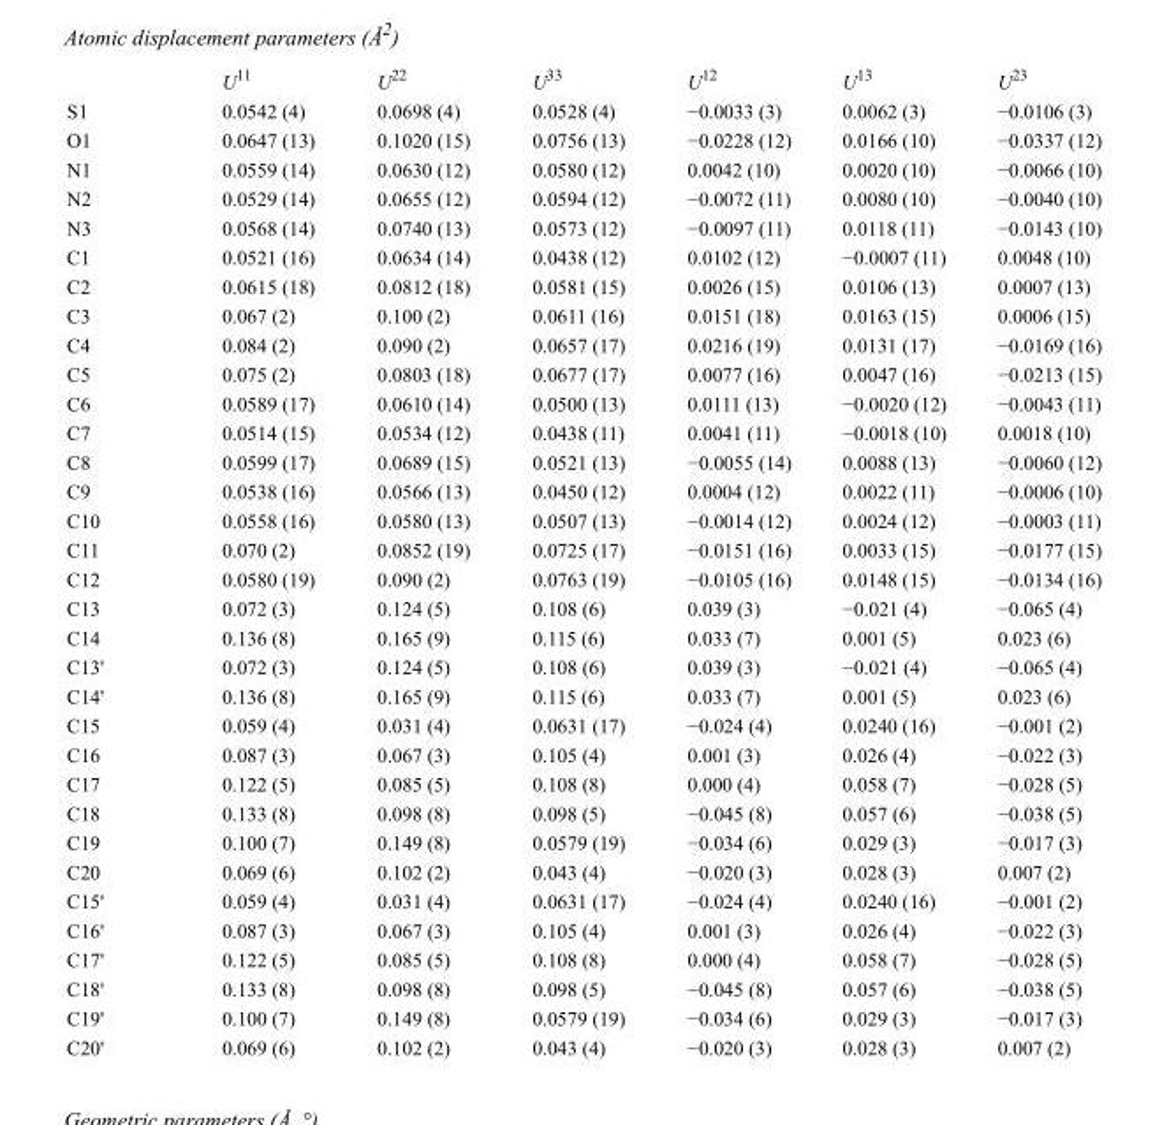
<table><thead><tr><td></td><td>U<sup>11</sup></td><td>U<sup>22</sup></td><td>U<sup>33</sup></td><td>U<sup>12</sup></td><td>U<sup>13</sup></td><td>U<sup>23</sup></td></tr></thead><tbody><tr><td>S1</td><td>0.0542 (4)</td><td>0.0698 (4)</td><td>0.0528 (4)</td><td>−0.0033 (3)</td><td>0.0062 (3)</td><td>−0.0106 (3)</td></tr><tr><td>O1</td><td>0.0647 (13)</td><td>0.1020 (15)</td><td>0.0756 (13)</td><td>−0.0228 (12)</td><td>0.0166 (10)</td><td>−0.0337 (12)</td></tr><tr><td>N1</td><td>0.0559 (14)</td><td>0.0630 (12)</td><td>0.0580 (12)</td><td>0.0042 (10)</td><td>0.0020 (10)</td><td>−0.0066 (10)</td></tr><tr><td>N2</td><td>0.0529 (14)</td><td>0.0655 (12)</td><td>0.0594 (12)</td><td>−0.0072 (11)</td><td>0.0080 (10)</td><td>−0.0040 (10)</td></tr><tr><td>N3</td><td>0.0568 (14)</td><td>0.0740 (13)</td><td>0.0573 (12)</td><td>−0.0097 (11)</td><td>0.0118 (11)</td><td>−0.0143 (10)</td></tr><tr><td>C1</td><td>0.0521 (16)</td><td>0.0634 (14)</td><td>0.0438 (12)</td><td>0.0102 (12)</td><td>−0.0007 (11)</td><td>0.0048 (10)</td></tr><tr><td>C2</td><td>0.0615 (18)</td><td>0.0812 (18)</td><td>0.0581 (15)</td><td>0.0026 (15)</td><td>0.0106 (13)</td><td>0.0007 (13)</td></tr><tr><td>C3</td><td>0.067 (2)</td><td>0.100 (2)</td><td>0.0611 (16)</td><td>0.0151 (18)</td><td>0.0163 (15)</td><td>0.0006 (15)</td></tr><tr><td>C4</td><td>0.084 (2)</td><td>0.090 (2)</td><td>0.0657 (17)</td><td>0.0216 (19)</td><td>0.0131 (17)</td><td>−0.0169 (16)</td></tr><tr><td>C5</td><td>0.075 (2)</td><td>0.0803 (18)</td><td>0.0677 (17)</td><td>0.0077 (16)</td><td>0.0047 (16)</td><td>−0.0213 (15)</td></tr><tr><td>C6</td><td>0.0589 (17)</td><td>0.0610 (14)</td><td>0.0500 (13)</td><td>0.0111 (13)</td><td>−0.0020 (12)</td><td>−0.0043 (11)</td></tr><tr><td>C7</td><td>0.0514 (15)</td><td>0.0534 (12)</td><td>0.0438 (11)</td><td>0.0041 (11)</td><td>−0.0018 (10)</td><td>0.0018 (10)</td></tr><tr><td>C8</td><td>0.0599 (17)</td><td>0.0689 (15)</td><td>0.0521 (13)</td><td>−0.0055 (14)</td><td>0.0088 (13)</td><td>−0.0060 (12)</td></tr><tr><td>C9</td><td>0.0538 (16)</td><td>0.0566 (13)</td><td>0.0450 (12)</td><td>0.0004 (12)</td><td>0.0022 (11)</td><td>−0.0006 (10)</td></tr><tr><td>C10</td><td>0.0558 (16)</td><td>0.0580 (13)</td><td>0.0507 (13)</td><td>−0.0014 (12)</td><td>0.0024 (12)</td><td>−0.0003 (11)</td></tr><tr><td>C11</td><td>0.070 (2)</td><td>0.0852 (19)</td><td>0.0725 (17)</td><td>−0.0151 (16)</td><td>0.0033 (15)</td><td>−0.0177 (15)</td></tr><tr><td>C12</td><td>0.0580 (19)</td><td>0.090 (2)</td><td>0.0763 (19)</td><td>−0.0105 (16)</td><td>0.0148 (15)</td><td>−0.0134 (16)</td></tr><tr><td>C13</td><td>0.072 (3)</td><td>0.124 (5)</td><td>0.108 (6)</td><td>0.039 (3)</td><td>−0.021 (4)</td><td>−0.065 (4)</td></tr><tr><td>C14</td><td>0.136 (8)</td><td>0.165 (9)</td><td>0.115 (6)</td><td>0.033 (7)</td><td>0.001 (5)</td><td>0.023 (6)</td></tr><tr><td>C13&#x27;</td><td>0.072 (3)</td><td>0.124 (5)</td><td>0.108 (6)</td><td>0.039 (3)</td><td>−0.021 (4)</td><td>−0.065 (4)</td></tr><tr><td>C14&#x27;</td><td>0.136 (8)</td><td>0.165 (9)</td><td>0.115 (6)</td><td>0.033 (7)</td><td>0.001 (5)</td><td>0.023 (6)</td></tr><tr><td>C15</td><td>0.059 (4)</td><td>0.031 (4)</td><td>0.0631 (17)</td><td>−0.024 (4)</td><td>0.0240 (16)</td><td>−0.001 (2)</td></tr><tr><td>C16</td><td>0.087 (3)</td><td>0.067 (3)</td><td>0.105 (4)</td><td>0.001 (3)</td><td>0.026 (4)</td><td>−0.022 (3)</td></tr><tr><td>C17</td><td>0.122 (5)</td><td>0.085 (5)</td><td>0.108 (8)</td><td>0.000 (4)</td><td>0.058 (7)</td><td>−0.028 (5)</td></tr><tr><td>C18</td><td>0.133 (8)</td><td>0.098 (8)</td><td>0.098 (5)</td><td>−0.045 (8)</td><td>0.057 (6)</td><td>−0.038 (5)</td></tr><tr><td>C19</td><td>0.100 (7)</td><td>0.149 (8)</td><td>0.0579 (19)</td><td>−0.034 (6)</td><td>0.029 (3)</td><td>−0.017 (3)</td></tr><tr><td>C20</td><td>0.069 (6)</td><td>0.102 (2)</td><td>0.043 (4)</td><td>−0.020 (3)</td><td>0.028 (3)</td><td>0.007 (2)</td></tr><tr><td>C15&#x27;</td><td>0.059 (4)</td><td>0.031 (4)</td><td>0.0631 (17)</td><td>−0.024 (4)</td><td>0.0240 (16)</td><td>−0.001 (2)</td></tr><tr><td>C16&#x27;</td><td>0.087 (3)</td><td>0.067 (3)</td><td>0.105 (4)</td><td>0.001 (3)</td><td>0.026 (4)</td><td>−0.022 (3)</td></tr><tr><td>C17&#x27;</td><td>0.122 (5)</td><td>0.085 (5)</td><td>0.108 (8)</td><td>0.000 (4)</td><td>0.058 (7)</td><td>−0.028 (5)</td></tr><tr><td>C18&#x27;</td><td>0.133 (8)</td><td>0.098 (8)</td><td>0.098 (5)</td><td>−0.045 (8)</td><td>0.057 (6)</td><td>−0.038 (5)</td></tr><tr><td>C19&#x27;</td><td>0.100 (7)</td><td>0.149 (8)</td><td>0.0579 (19)</td><td>−0.034 (6)</td><td>0.029 (3)</td><td>−0.017 (3)</td></tr><tr><td>C20&#x27;</td><td>0.069 (6)</td><td>0.102 (2)</td><td>0.043 (4)</td><td>−0.020 (3)</td><td>0.028 (3)</td><td>0.007 (2)</td></tr></tbody></table>